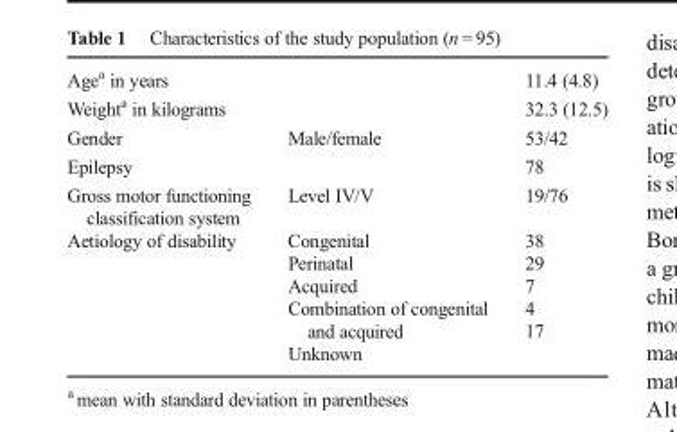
<table><tbody><tr><td>Age<sup>a</sup> in years</td><td></td><td>11.4 (4.8)</td></tr><tr><td>Weight<sup>a</sup> in kilograms</td><td></td><td>32.3 (12.5)</td></tr><tr><td>Gender</td><td>Male/female</td><td>53/42</td></tr><tr><td>Epilepsy</td><td></td><td>78</td></tr><tr><td>Gross motor functioning classification system</td><td>Level IV/V</td><td>19/76</td></tr><tr><td>Aetiology of disability</td><td>Congenital Perinatal Acquired Combination of congenital and acquired Unknown</td><td>38 29 7 4 17</td></tr></tbody></table>